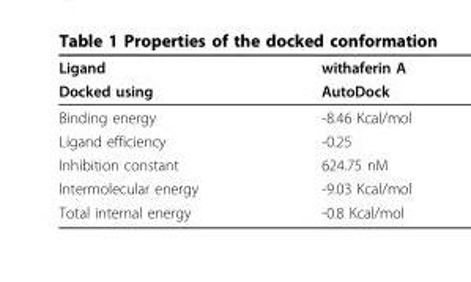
<table><thead><tr><td rowspan="2">Ligand Docked using</td><td rowspan="2">withaferin A AutoDock</td></tr><tr></tr></thead><tbody><tr><td>Binding energy</td><td>-8.46 Kcal/mol</td></tr><tr><td>Ligand efficiency</td><td>-0.25</td></tr><tr><td>Inhibition constant</td><td>624.75 nM</td></tr><tr><td>Intermolecular energy</td><td>-9.03 Kcal/mol</td></tr><tr><td>Total internal energy</td><td>-0.8 Kcal/mol</td></tr></tbody></table>